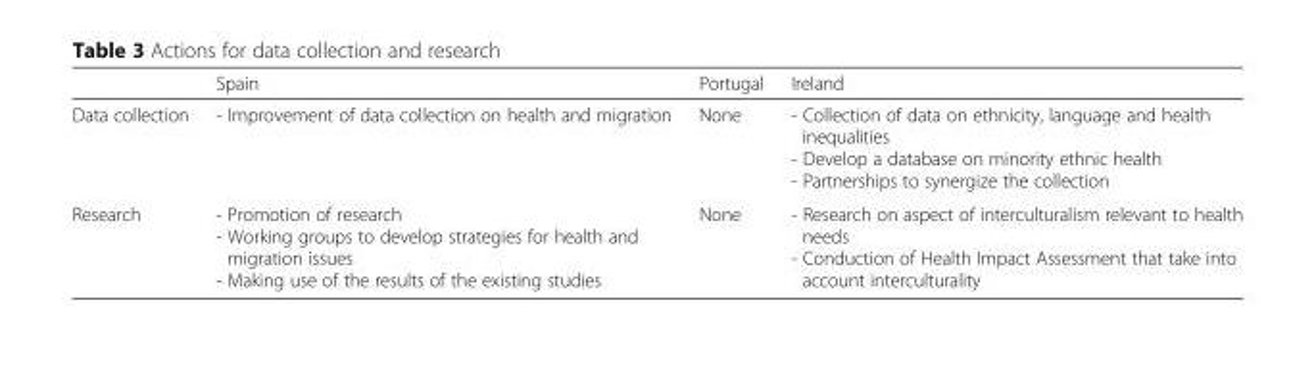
<table><thead><tr><td></td><td>Spain</td><td>Portugal</td><td>Ireland</td></tr></thead><tbody><tr><td>Data collection</td><td>- Improvement of data collection on health and migration</td><td>None</td><td>- Collection of data on ethnicity, language and health inequalities - Develop a database on minority ethnic health - Partnerships to synergize the collection</td></tr><tr><td>Research</td><td>- Promotion of research - Working groups to develop strategies for health and migration issues - Making use of the results of the existing studies</td><td>None</td><td>- Research on aspect of interculturalism relevant to health needs - Conduction of Health Impact Assessment that take into account interculturality</td></tr></tbody></table>